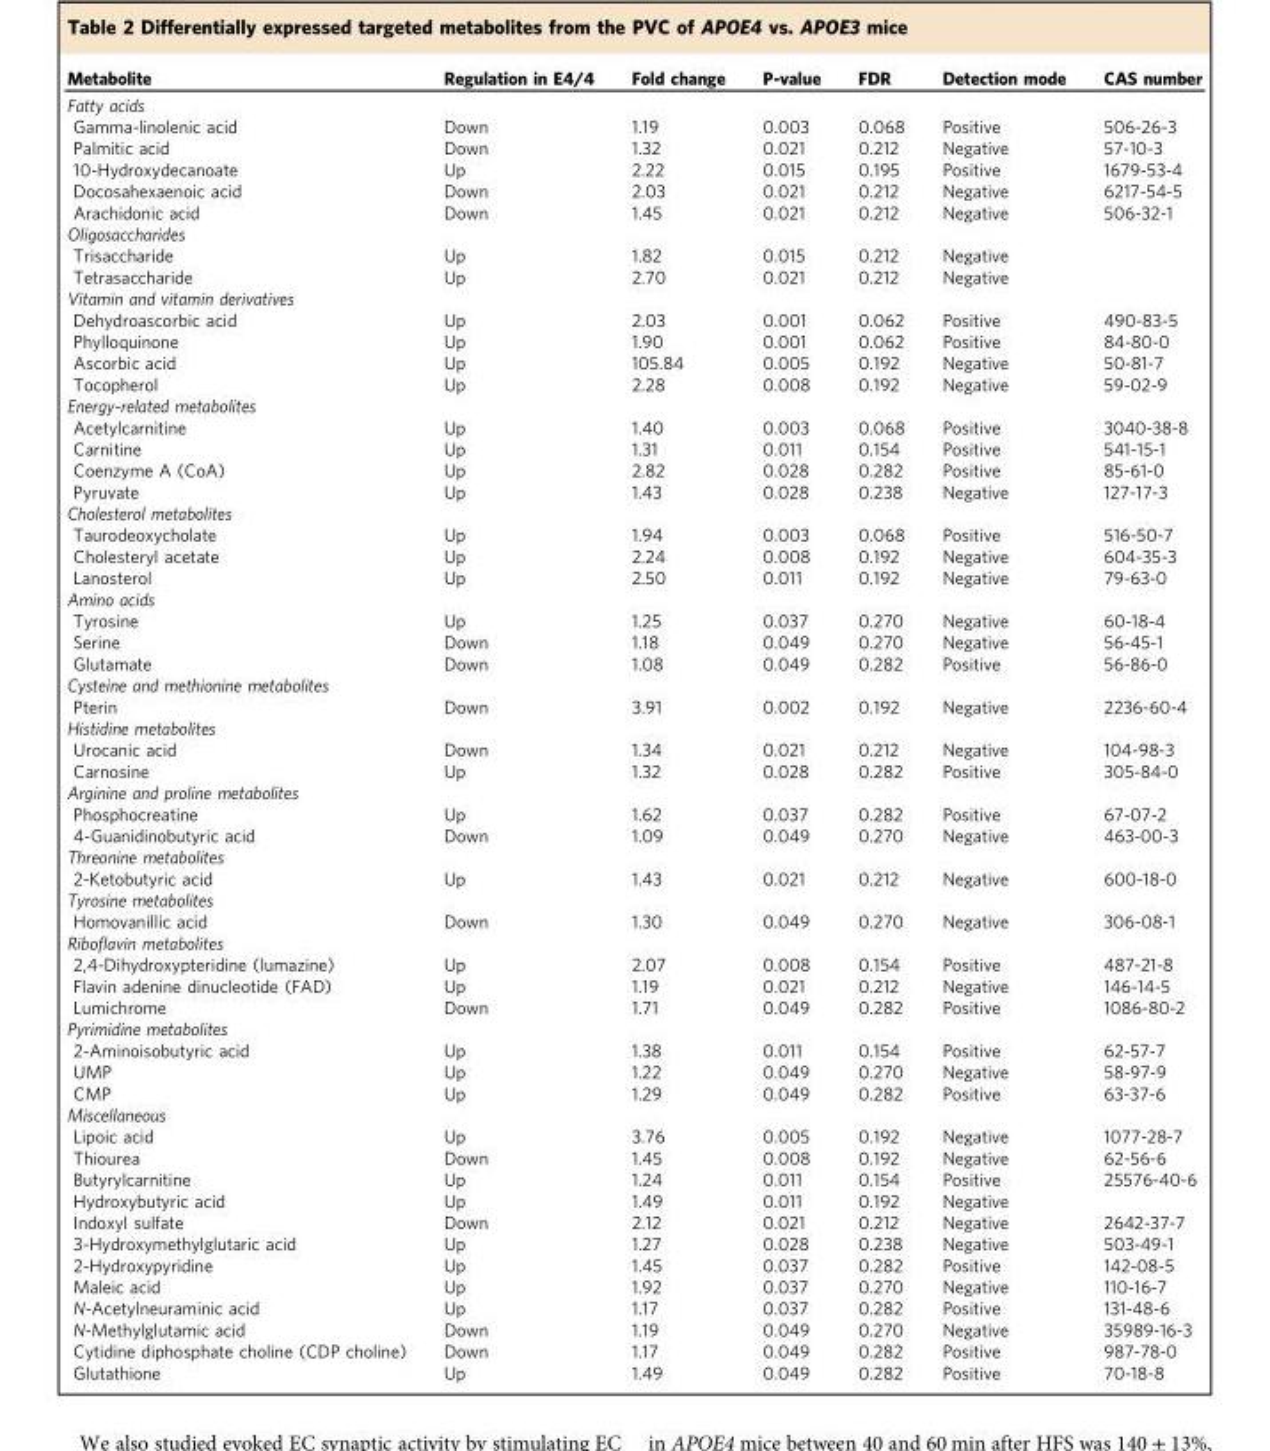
<table><thead><tr><td>Metabolite</td><td>Regulation in E4/4</td><td>Fold change</td><td>P-value</td><td>FDR</td><td>Detection mode</td><td>CAS number</td></tr></thead><tbody><tr><td colspan="7">Fatty acids</td></tr><tr><td>Gamma-linolenic acid</td><td>Down</td><td>1.19</td><td>0.003</td><td>0.068</td><td>Positive</td><td>506-26-3</td></tr><tr><td>Palmitic acid</td><td>Down</td><td>1.32</td><td>0.021</td><td>0.212</td><td>Negative</td><td>57-10-3</td></tr><tr><td>10-Hydroxydecanoate</td><td>Up</td><td>2.22</td><td>0.015</td><td>0.195</td><td>Positive</td><td>1679-53-4</td></tr><tr><td>Docosahexaenoic acid</td><td>Down</td><td>2.03</td><td>0.021</td><td>0.212</td><td>Negative</td><td>6217-54-5</td></tr><tr><td>Arachidonic acid</td><td>Down</td><td>1.45</td><td>0.021</td><td>0.212</td><td>Negative</td><td>506-32-1</td></tr><tr><td colspan="7">Oligosaccharides</td></tr><tr><td>Trisaccharide</td><td>Up</td><td>1.82</td><td>0.015</td><td>0.212</td><td>Negative</td><td></td></tr><tr><td>Tetrasaccharide</td><td>Up</td><td>2.70</td><td>0.021</td><td>0.212</td><td>Negative</td><td></td></tr><tr><td colspan="7">Vitamin and vitamin derivatives</td></tr><tr><td>Dehydroascorbic acid</td><td>Up</td><td>2.03</td><td>0.001</td><td>0.062</td><td>Positive</td><td>490-83-5</td></tr><tr><td>Phylloquinone</td><td>Up</td><td>1.90</td><td>0.001</td><td>0.062</td><td>Positive</td><td>84-80-0</td></tr><tr><td>Ascorbic acid</td><td>Up</td><td>105.84</td><td>0.005</td><td>0.192</td><td>Negative</td><td>50-81-7</td></tr><tr><td>Tocopherol</td><td>Up</td><td>2.28</td><td>0.008</td><td>0.192</td><td>Negative</td><td>59-02-9</td></tr><tr><td colspan="7">Energy-related metabolites</td></tr><tr><td>Acetylcarnitine</td><td>Up</td><td>1.40</td><td>0.003</td><td>0.068</td><td>Positive</td><td>3040-38-8</td></tr><tr><td>Carnitine</td><td>Up</td><td>1.31</td><td>0.011</td><td>0.154</td><td>Positive</td><td>541-15-1</td></tr><tr><td>Coenzyme A (CoA)</td><td>Up</td><td>2.82</td><td>0.028</td><td>0.282</td><td>Positive</td><td>85-61-0</td></tr><tr><td>Pyruvate</td><td>Up</td><td>1.43</td><td>0.028</td><td>0.238</td><td>Negative</td><td>127-17-3</td></tr><tr><td colspan="7">Cholesterol metabolites</td></tr><tr><td>Taurodeoxycholate</td><td>Up</td><td>1.94</td><td>0.003</td><td>0.068</td><td>Positive</td><td>516-50-7</td></tr><tr><td>Cholesteryl acetate</td><td>Up</td><td>2.24</td><td>0.008</td><td>0.192</td><td>Negative</td><td>604-35-3</td></tr><tr><td>Lanosterol</td><td>Up</td><td>2.50</td><td>0.011</td><td>0.192</td><td>Negative</td><td>79-63-0</td></tr><tr><td colspan="7">Amino acids</td></tr><tr><td>Tyrosine</td><td>Up</td><td>1.25</td><td>0.037</td><td>0.270</td><td>Negative</td><td>60-18-4</td></tr><tr><td>Serine</td><td>Down</td><td>1.18</td><td>0.049</td><td>0.270</td><td>Negative</td><td>56-45-1</td></tr><tr><td>Glutamate</td><td>Down</td><td>1.08</td><td>0.049</td><td>0.282</td><td>Positive</td><td>56-86-0</td></tr><tr><td colspan="7">Cysteine and methionine metabolites</td></tr><tr><td>Pterin</td><td>Down</td><td>3.91</td><td>0.002</td><td>0.192</td><td>Negative</td><td>2236-60-4</td></tr><tr><td colspan="7">Histidine metabolites</td></tr><tr><td>Urocanic acid</td><td>Down</td><td>1.34</td><td>0.021</td><td>0.212</td><td>Negative</td><td>104-98-3</td></tr><tr><td>Carnosine</td><td>Up</td><td>1.32</td><td>0.028</td><td>0.282</td><td>Positive</td><td>305-84-0</td></tr><tr><td colspan="7">Arginine and proline metabolites</td></tr><tr><td>Phosphocreatine</td><td>Up</td><td>1.62</td><td>0.037</td><td>0.282</td><td>Positive</td><td>67-07-2</td></tr><tr><td>4-Guanidinobutyric acid</td><td>Down</td><td>1.09</td><td>0.049</td><td>0.270</td><td>Negative</td><td>463-00-3</td></tr><tr><td colspan="7">Threonine metabolites</td></tr><tr><td>2-Ketobutyric acid</td><td>Up</td><td>1.43</td><td>0.021</td><td>0.212</td><td>Negative</td><td>600-18-0</td></tr><tr><td colspan="7">Tyrosine metabolites</td></tr><tr><td>Homovanillic acid</td><td>Down</td><td>1.30</td><td>0.049</td><td>0.270</td><td>Negative</td><td>306-08-1</td></tr><tr><td colspan="7">Riboflavin metabolites</td></tr><tr><td>2,4-Dihydroxypteridine (lumazine)</td><td>Up</td><td>2.07</td><td>0.008</td><td>0.154</td><td>Positive</td><td>487-21-8</td></tr><tr><td>Flavin adenine dinucleotide (FAD)</td><td>Up</td><td>1.19</td><td>0.021</td><td>0.212</td><td>Negative</td><td>146-14-5</td></tr><tr><td>Lumichrome</td><td>Down</td><td>1.71</td><td>0.049</td><td>0.282</td><td>Positive</td><td>1086-80-2</td></tr><tr><td colspan="7">Pyrimidine metabolites</td></tr><tr><td>2-Aminoisobutyric acid</td><td>Up</td><td>1.38</td><td>0.011</td><td>0.154</td><td>Positive</td><td>62-57-7</td></tr><tr><td>UMP</td><td>Up</td><td>1.22</td><td>0.049</td><td>0.270</td><td>Negative</td><td>58-97-9</td></tr><tr><td>CMP</td><td>Up</td><td>1.29</td><td>0.049</td><td>0.282</td><td>Positive</td><td>63-37-6</td></tr><tr><td colspan="7">Miscellaneous</td></tr><tr><td>Lipoic acid</td><td>Up</td><td>3.76</td><td>0.005</td><td>0.192</td><td>Negative</td><td>1077-28-7</td></tr><tr><td>Thiourea</td><td>Down</td><td>1.45</td><td>0.008</td><td>0.192</td><td>Negative</td><td>62-56-6</td></tr><tr><td>Butyrylcarnitine</td><td>Up</td><td>1.24</td><td>0.011</td><td>0.154</td><td>Positive</td><td>25576-40-6</td></tr><tr><td>Hydroxybutyric acid</td><td>Up</td><td>1.49</td><td>0.011</td><td>0.192</td><td>Negative</td><td></td></tr><tr><td>Indoxyl sulfate</td><td>Down</td><td>2.12</td><td>0.021</td><td>0.212</td><td>Negative</td><td>2642-37-7</td></tr><tr><td>3-Hydroxymethylglutaric acid</td><td>Up</td><td>1.27</td><td>0.028</td><td>0.238</td><td>Negative</td><td>503-49-1</td></tr><tr><td>2-Hydroxypyridine</td><td>Up</td><td>1.45</td><td>0.037</td><td>0.282</td><td>Positive</td><td>142-08-5</td></tr><tr><td>Maleic acid</td><td>Up</td><td>1.92</td><td>0.037</td><td>0.270</td><td>Negative</td><td>110-16-7</td></tr><tr><td>N-Acetylneuraminic acid</td><td>Up</td><td>1.17</td><td>0.037</td><td>0.282</td><td>Positive</td><td>131-48-6</td></tr><tr><td>N-Methylglutamic acid</td><td>Down</td><td>1.19</td><td>0.049</td><td>0.270</td><td>Negative</td><td>35989-16-3</td></tr><tr><td>Cytidine diphosphate choline (CDP choline)</td><td>Down</td><td>1.17</td><td>0.049</td><td>0.282</td><td>Positive</td><td>987-78-0</td></tr><tr><td>Glutathione</td><td>Up</td><td>1.49</td><td>0.049</td><td>0.282</td><td>Positive</td><td>70-18-8</td></tr></tbody></table>